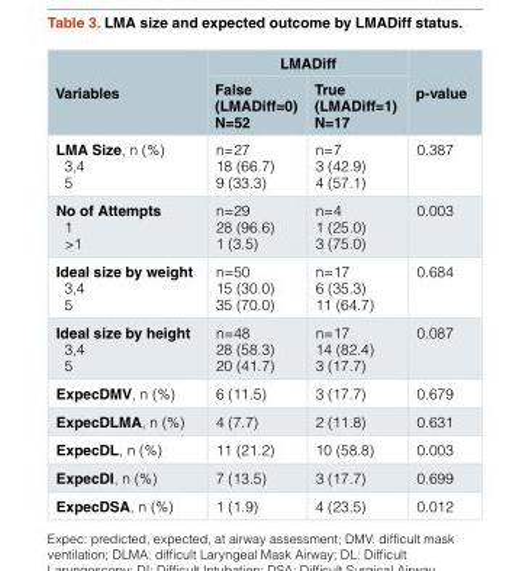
<table><thead><tr><td rowspan="2">Variables</td><td colspan="2">LMADiff</td><td rowspan="2">p-value</td></tr><tr><td>False (LMADiff=0) N=52</td><td>True (LMADiff=1) N=17</td></tr></thead><tbody><tr><td>LMA Size, n (%) 3,4 5</td><td>n=27 18 (66.7) 9 (33.3)</td><td>n=7 3 (42.9) 4 (57.1)</td><td>0.387</td></tr><tr><td>No of Attempts 1 &gt;1</td><td>n=29 28 (96.6) 1 (3.5)</td><td>n=4 1 (25.0) 3 (75.0)</td><td>0.003</td></tr><tr><td>Ideal size by weight 3,4 5</td><td>n=50 15 (30.0) 35 (70.0)</td><td>n=17 6 (35.3) 11 (64.7)</td><td>0.684</td></tr><tr><td>Ideal size by height 3,4 5</td><td>n=48 28 (58.3) 20 (41.7)</td><td>n=17 14 (82.4) 3 (17.7)</td><td>0.087</td></tr><tr><td>ExpecDMV, n (%)</td><td>6 (11.5)</td><td>3 (17.7)</td><td>0.679</td></tr><tr><td>ExpecDLMA, n (%)</td><td>4 (7.7)</td><td>2 (11.8)</td><td>0.631</td></tr><tr><td>ExpecDL, n (%)</td><td>11 (21.2)</td><td>10 (58.8)</td><td>0.003</td></tr><tr><td>ExpecDI, n (%)</td><td>7 (13.5)</td><td>3 (17.7)</td><td>0.699</td></tr><tr><td>ExpecDSA, n (%)</td><td>1 (1.9)</td><td>4 (23.5)</td><td>0.012</td></tr></tbody></table>